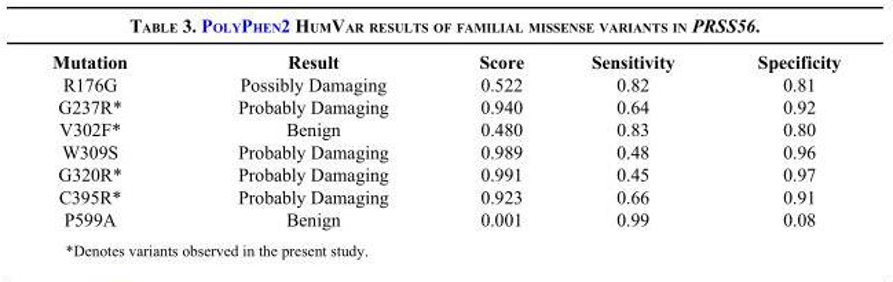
<table><thead><tr><td>Mutation</td><td>Result</td><td>Score</td><td>Sensitivity</td><td>Specificity</td></tr></thead><tbody><tr><td>R176G</td><td>Possibly Damaging</td><td>0.522</td><td>0.82</td><td>0.81</td></tr><tr><td>G237R*</td><td>Probably Damaging</td><td>0.940</td><td>0.64</td><td>0.92</td></tr><tr><td>V302F*</td><td>Benign</td><td>0.480</td><td>0.83</td><td>0.80</td></tr><tr><td>W309S</td><td>Probably Damaging</td><td>0.989</td><td>0.48</td><td>0.96</td></tr><tr><td>G320R*</td><td>Probably Damaging</td><td>0.991</td><td>0.45</td><td>0.97</td></tr><tr><td>C395R*</td><td>Probably Damaging</td><td>0.923</td><td>0.66</td><td>0.91</td></tr><tr><td>P599A</td><td>Benign</td><td>0.001</td><td>0.99</td><td>0.08</td></tr></tbody></table>